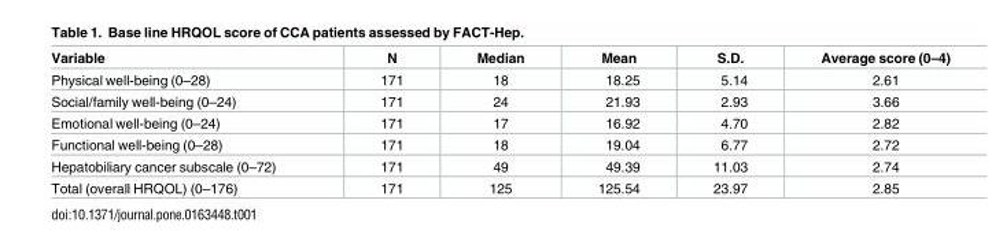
<table><thead><tr><td>Variable</td><td>N</td><td>Median</td><td>Mean</td><td>S.D.</td><td>Average score (0–4)</td></tr></thead><tbody><tr><td>Physical well-being (0–28)</td><td>171</td><td>18</td><td>18.25</td><td>5.14</td><td>2.61</td></tr><tr><td>Social/family well-being (0–24)</td><td>171</td><td>24</td><td>21.93</td><td>2.93</td><td>3.66</td></tr><tr><td>Emotional well-being (0–24)</td><td>171</td><td>17</td><td>16.92</td><td>4.70</td><td>2.82</td></tr><tr><td>Functional well-being (0–28)</td><td>171</td><td>18</td><td>19.04</td><td>6.77</td><td>2.72</td></tr><tr><td>Hepatobiliary cancer subscale (0–72)</td><td>171</td><td>49</td><td>49.39</td><td>11.03</td><td>2.74</td></tr><tr><td>Total (overall HRQOL) (0–176)</td><td>171</td><td>125</td><td>125.54</td><td>23.97</td><td>2.85</td></tr></tbody></table>